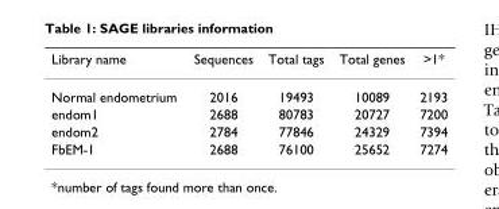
<table><thead><tr><td>Library name</td><td>Sequences</td><td>Total tags</td><td>Total genes</td><td>&gt;1*</td></tr></thead><tbody><tr><td>Normal endometrium</td><td>2016</td><td>19493</td><td>10089</td><td>2193</td></tr><tr><td>endom1</td><td>2688</td><td>80783</td><td>20727</td><td>7200</td></tr><tr><td>endom2</td><td>2784</td><td>77846</td><td>24329</td><td>7394</td></tr><tr><td>FbEM-1</td><td>2688</td><td>76100</td><td>25652</td><td>7274</td></tr></tbody></table>